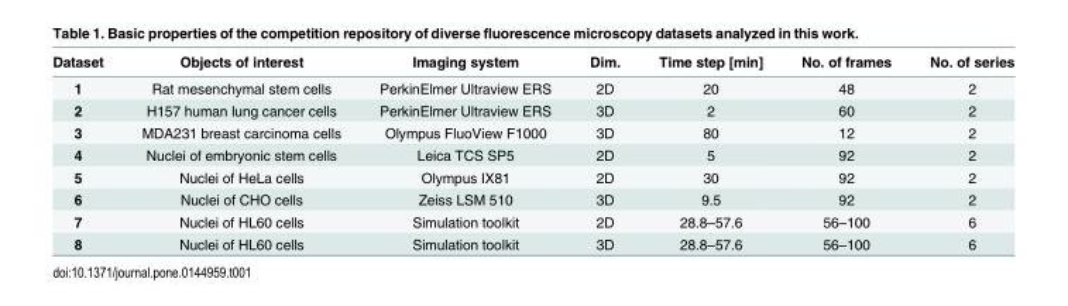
<table><thead><tr><td>Dataset</td><td>Objects of interest</td><td>Imaging system</td><td>Dim.</td><td>Time step [min]</td><td>No. of frames</td><td>No. of series</td></tr></thead><tbody><tr><td>1</td><td>Rat mesenchymal stem cells</td><td>PerkinElmer Ultraview ERS</td><td>2D</td><td>20</td><td>48</td><td>2</td></tr><tr><td>2</td><td>H157 human lung cancer cells</td><td>PerkinElmer Ultraview ERS</td><td>3D</td><td>2</td><td>60</td><td>2</td></tr><tr><td>3</td><td>MDA231 breast carcinoma cells</td><td>Olympus FluoView F1000</td><td>3D</td><td>80</td><td>12</td><td>2</td></tr><tr><td>4</td><td>Nuclei of embryonic stem cells</td><td>Leica TCS SP5</td><td>2D</td><td>5</td><td>92</td><td>2</td></tr><tr><td>5</td><td>Nuclei of HeLa cells</td><td>Olympus IX81</td><td>2D</td><td>30</td><td>92</td><td>2</td></tr><tr><td>6</td><td>Nuclei of CHO cells</td><td>Zeiss LSM 510</td><td>3D</td><td>9.5</td><td>92</td><td>2</td></tr><tr><td>7</td><td>Nuclei of HL60 cells</td><td>Simulation toolkit</td><td>2D</td><td>28.8–57.6</td><td>56–100</td><td>6</td></tr><tr><td>8</td><td>Nuclei of HL60 cells</td><td>Simulation toolkit</td><td>3D</td><td>28.8–57.6</td><td>56–100</td><td>6</td></tr></tbody></table>